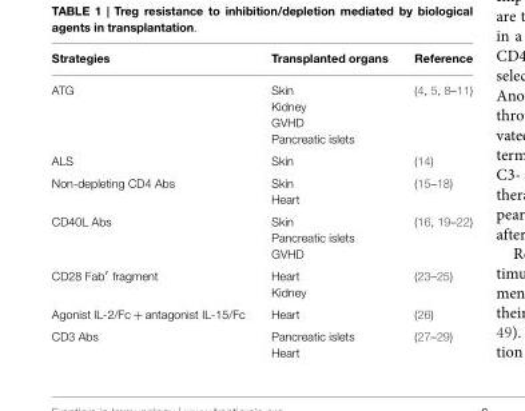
<table><thead><tr><td>Strategies</td><td>Transplanted organs</td><td>Reference</td></tr></thead><tbody><tr><td rowspan="4">ATG</td><td>Skin</td><td>(4, 5, 8–11)</td></tr><tr><td>Kidney</td><td></td></tr><tr><td>GVHD</td><td></td></tr><tr><td>Pancreatic islets</td><td></td></tr><tr><td>ALS</td><td>Skin</td><td>(14)</td></tr><tr><td rowspan="2">Non-depleting CD4 Abs</td><td>Skin</td><td>(15–18)</td></tr><tr><td>Heart</td><td></td></tr><tr><td rowspan="3">CD40L Abs</td><td>Skin</td><td>(16, 19–22)</td></tr><tr><td>Pancreatic islets</td><td></td></tr><tr><td>GVHD</td><td></td></tr><tr><td rowspan="2">CD28 Fab′ fragment</td><td>Heart</td><td>(23–25)</td></tr><tr><td>Kidney</td><td></td></tr><tr><td>Agonist IL-2/Fc + antagonist IL-15/Fc</td><td>Heart</td><td>(26)</td></tr><tr><td rowspan="2">CD3 Abs</td><td>Pancreatic islets</td><td>(27–29)</td></tr><tr><td>Heart</td><td></td></tr></tbody></table>